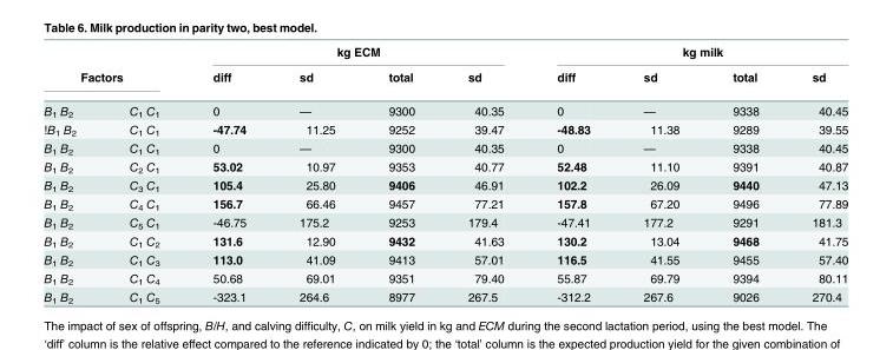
<table><thead><tr><td></td><td></td><td colspan="4">kg ECM</td><td colspan="4">kg milk</td></tr><tr><td colspan="2">Factors</td><td>diff</td><td>sd</td><td>total</td><td>sd</td><td>diff</td><td>sd</td><td>total</td><td>sd</td></tr></thead><tbody><tr><td>B<sub>1</sub> B<sub>2</sub></td><td>C<sub>1</sub> C<sub>1</sub></td><td>0</td><td>—</td><td>9300</td><td>40.35</td><td>0</td><td>—</td><td>9338</td><td>40.45</td></tr><tr><td>!B<sub>1</sub> B<sub>2</sub></td><td>C<sub>1</sub> C<sub>1</sub></td><td>-47.74</td><td>11.25</td><td>9252</td><td>39.47</td><td>-48.83</td><td>11.38</td><td>9289</td><td>39.55</td></tr><tr><td>B<sub>1</sub> B<sub>2</sub></td><td>C<sub>1</sub> C<sub>1</sub></td><td>0</td><td>—</td><td>9300</td><td>40.35</td><td>0</td><td>—</td><td>9338</td><td>40.45</td></tr><tr><td>B<sub>1</sub> B<sub>2</sub></td><td>C<sub>2</sub> C<sub>1</sub></td><td>53.02</td><td>10.97</td><td>9353</td><td>40.77</td><td>52.48</td><td>11.10</td><td>9391</td><td>40.87</td></tr><tr><td>B<sub>1</sub> B<sub>2</sub></td><td>C<sub>3</sub> C<sub>1</sub></td><td>105.4</td><td>25.80</td><td>9406</td><td>46.91</td><td>102.2</td><td>26.09</td><td>9440</td><td>47.13</td></tr><tr><td>B<sub>1</sub> B<sub>2</sub></td><td>C<sub>4</sub> C<sub>1</sub></td><td>156.7</td><td>66.46</td><td>9457</td><td>77.21</td><td>157.8</td><td>67.20</td><td>9496</td><td>77.89</td></tr><tr><td>B<sub>1</sub> B<sub>2</sub></td><td>C<sub>5</sub> C<sub>1</sub></td><td>-46.75</td><td>175.2</td><td>9253</td><td>179.4</td><td>-47.41</td><td>177.2</td><td>9291</td><td>181.3</td></tr><tr><td>B<sub>1</sub> B<sub>2</sub></td><td>C<sub>1</sub> C<sub>2</sub></td><td>131.6</td><td>12.90</td><td>9432</td><td>41.63</td><td>130.2</td><td>13.04</td><td>9468</td><td>41.75</td></tr><tr><td>B<sub>1</sub> B<sub>2</sub></td><td>C<sub>1</sub> C<sub>3</sub></td><td>113.0</td><td>41.09</td><td>9413</td><td>57.01</td><td>116.5</td><td>41.55</td><td>9455</td><td>57.40</td></tr><tr><td>B<sub>1</sub> B<sub>2</sub></td><td>C<sub>1</sub> C<sub>4</sub></td><td>50.68</td><td>69.01</td><td>9351</td><td>79.40</td><td>55.87</td><td>69.79</td><td>9394</td><td>80.11</td></tr><tr><td>B<sub>1</sub> B<sub>2</sub></td><td>C<sub>1</sub> C<sub>5</sub></td><td>-323.1</td><td>264.6</td><td>8977</td><td>267.5</td><td>-312.2</td><td>267.6</td><td>9026</td><td>270.4</td></tr></tbody></table>